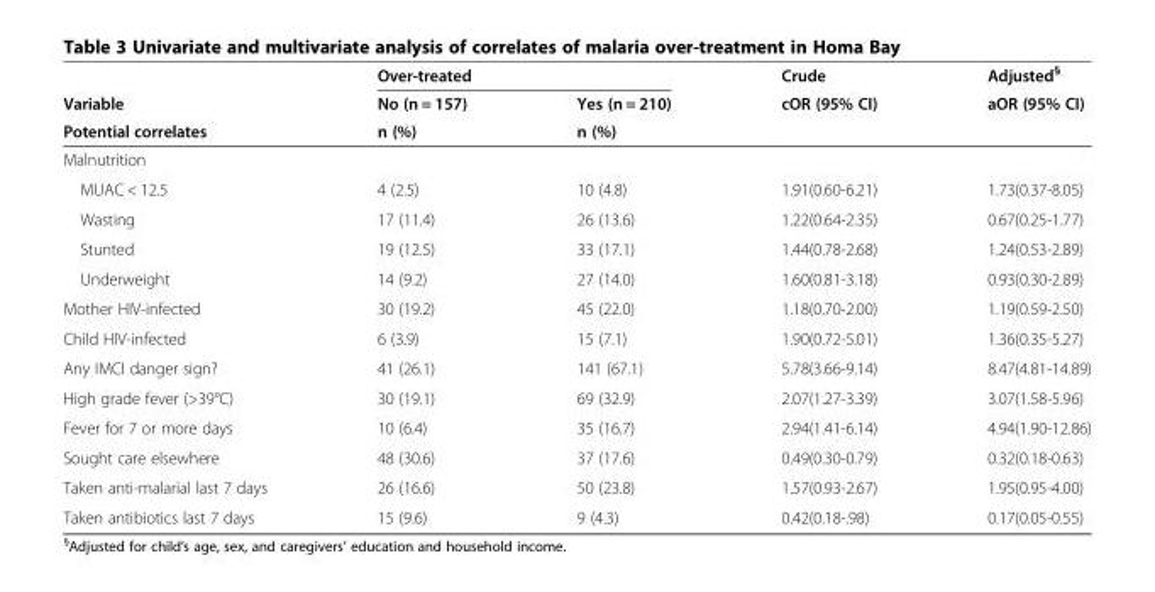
<table><thead><tr><td rowspan="3">Variable Potential correlates</td><td colspan="2">Over-treated</td><td rowspan="3">Crude cOR (95% CI)</td><td rowspan="3">Adjusted<sup>§</sup> aOR (95% CI)</td></tr><tr><td rowspan="2">No (n = 157) n (%)</td><td rowspan="2">Yes (n = 210) n (%)</td></tr><tr></tr></thead><tbody><tr><td colspan="5">Malnutrition</td></tr><tr><td>MUAC &lt; 12.5</td><td>4 (2.5)</td><td>10 (4.8)</td><td>1.91(0.60-6.21)</td><td>1.73(0.37-8.05)</td></tr><tr><td>Wasting</td><td>17 (11.4)</td><td>26 (13.6)</td><td>1.22(0.64-2.35)</td><td>0.67(0.25-1.77)</td></tr><tr><td>Stunted</td><td>19 (12.5)</td><td>33 (17.1)</td><td>1.44(0.78-2.68)</td><td>1.24(0.53-2.89)</td></tr><tr><td>Underweight</td><td>14 (9.2)</td><td>27 (14.0)</td><td>1.60(0.81-3.18)</td><td>0.93(0.30-2.89)</td></tr><tr><td>Mother HIV-infected</td><td>30 (19.2)</td><td>45 (22.0)</td><td>1.18(0.70-2.00)</td><td>1.19(0.59-2.50)</td></tr><tr><td>Child HIV-infected</td><td>6 (3.9)</td><td>15 (7.1)</td><td>1.90(0.72-5.01)</td><td>1.36(0.35-5.27)</td></tr><tr><td>Any IMCI danger sign?</td><td>41 (26.1)</td><td>141 (67.1)</td><td>5.78(3.66-9.14)</td><td>8.47(4.81-14.89)</td></tr><tr><td>High grade fever (&gt;39°C)</td><td>30 (19.1)</td><td>69 (32.9)</td><td>2.07(1.27-3.39)</td><td>3.07(1.58-5.96)</td></tr><tr><td>Fever for 7 or more days</td><td>10 (6.4)</td><td>35 (16.7)</td><td>2.94(1.41-6.14)</td><td>4.94(1.90-12.86)</td></tr><tr><td>Sought care elsewhere</td><td>48 (30.6)</td><td>37 (17.6)</td><td>0.49(0.30-0.79)</td><td>0.32(0.18-0.63)</td></tr><tr><td>Taken anti-malarial last 7 days</td><td>26 (16.6)</td><td>50 (23.8)</td><td>1.57(0.93-2.67)</td><td>1.95(0.95-4.00)</td></tr><tr><td>Taken antibiotics last 7 days</td><td>15 (9.6)</td><td>9 (4.3)</td><td>0.42(0.18-.98)</td><td>0.17(0.05-0.55)</td></tr></tbody></table>